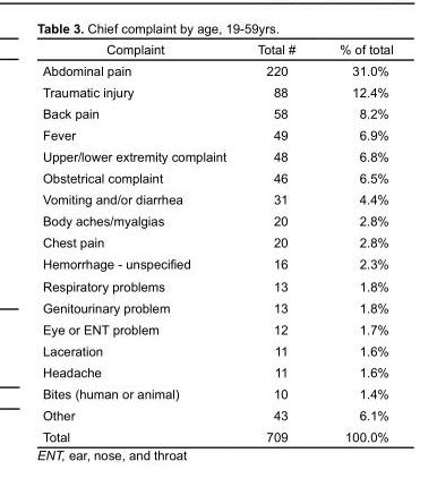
<table><thead><tr><td>Complaint</td><td>Total #</td><td>% of total</td></tr></thead><tbody><tr><td>Abdominal pain</td><td>220</td><td>31.0%</td></tr><tr><td>Traumatic injury</td><td>88</td><td>12.4%</td></tr><tr><td>Back pain</td><td>58</td><td>8.2%</td></tr><tr><td>Fever</td><td>49</td><td>6.9%</td></tr><tr><td>Upper/lower extremity complaint</td><td>48</td><td>6.8%</td></tr><tr><td>Obstetrical complaint</td><td>46</td><td>6.5%</td></tr><tr><td>Vomiting and/or diarrhea</td><td>31</td><td>4.4%</td></tr><tr><td>Body aches/myalgias</td><td>20</td><td>2.8%</td></tr><tr><td>Chest pain</td><td>20</td><td>2.8%</td></tr><tr><td>Hemorrhage - unspecified</td><td>16</td><td>2.3%</td></tr><tr><td>Respiratory problems</td><td>13</td><td>1.8%</td></tr><tr><td>Genitourinary problem</td><td>13</td><td>1.8%</td></tr><tr><td>Eye or ENT problem</td><td>12</td><td>1.7%</td></tr><tr><td>Laceration</td><td>11</td><td>1.6%</td></tr><tr><td>Headache</td><td>11</td><td>1.6%</td></tr><tr><td>Bites (human or animal)</td><td>10</td><td>1.4%</td></tr><tr><td>Other</td><td>43</td><td>6.1%</td></tr><tr><td>Total</td><td>709</td><td>100.0%</td></tr></tbody></table>